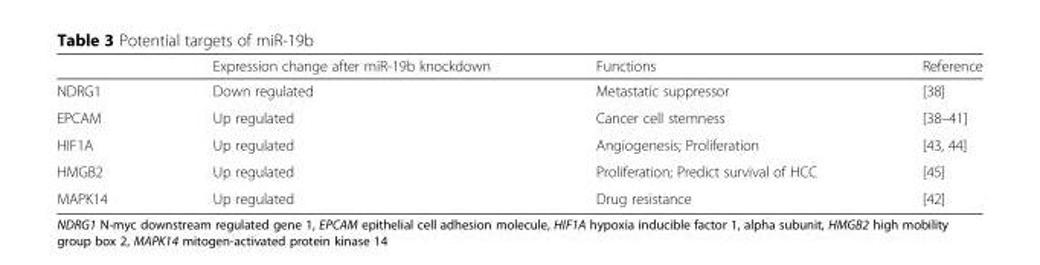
<table><thead><tr><td></td><td>Expression change after miR-19b knockdown</td><td>Functions</td><td>Reference</td></tr></thead><tbody><tr><td>NDRG1</td><td>Down regulated</td><td>Metastatic suppressor</td><td>[38]</td></tr><tr><td>EPCAM</td><td>Up regulated</td><td>Cancer cell stemness</td><td>[38–41]</td></tr><tr><td>HIF1A</td><td>Up regulated</td><td>Angiogenesis; Proliferation</td><td>[43, 44]</td></tr><tr><td>HMGB2</td><td>Up regulated</td><td>Proliferation; Predict survival of HCC</td><td>[45]</td></tr><tr><td>MAPK14</td><td>Up regulated</td><td>Drug resistance</td><td>[42]</td></tr></tbody></table>